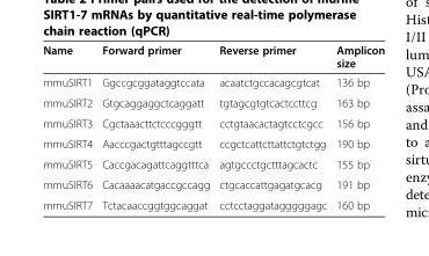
<table><thead><tr><td>Name</td><td>Forward primer</td><td>Reverse primer</td><td>Amplicon size</td></tr></thead><tbody><tr><td>mmuSIRT1</td><td>Ggccgcggataggtccata</td><td>acaatctgccacagcgtcat</td><td>136 bp</td></tr><tr><td>mmuSIRT2</td><td>Gtgcaggaggctcaggatt</td><td>tgtagcgtgtcactccttcg</td><td>163 bp</td></tr><tr><td>mmuSIRT3</td><td>Cgctaaacttctcccgggtt</td><td>cctgtaacactagtcctcgcc</td><td>156 bp</td></tr><tr><td>mmuSIRT4</td><td>Aacccgactgtttagccgtt</td><td>ccgctcattcttattctgtctgg</td><td>190 bp</td></tr><tr><td>mmuSIRT5</td><td>Caccgacagattcaggtttca</td><td>agtgccctgctttagcactc</td><td>155 bp</td></tr><tr><td>mmuSIRT6</td><td>Cacaaaacatgaccgccagg</td><td>ctgcaccattgagatgcacg</td><td>191 bp</td></tr><tr><td>mmuSIRT7</td><td>Tctacaaccggtggcaggat</td><td>cctcctaggatagggggagc</td><td>160 bp</td></tr></tbody></table>